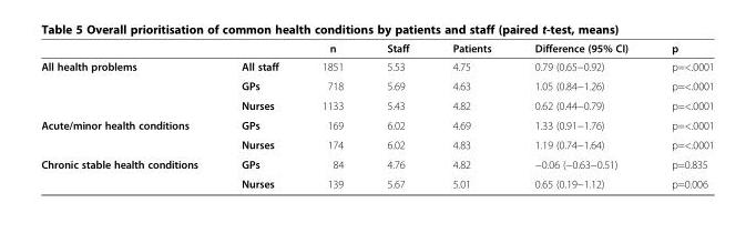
<table><thead><tr><td></td><td></td><td>n</td><td>Staff</td><td>Patients</td><td>Difference (95% CI)</td><td>p</td></tr></thead><tbody><tr><td rowspan="3">All health problems</td><td>All staff</td><td>1851</td><td>5.53</td><td>4.75</td><td>0.79 (0.65−0.92)</td><td>p=&lt;.0001</td></tr><tr><td>GPs</td><td>718</td><td>5.69</td><td>4.63</td><td>1.05 (0.84−1.26)</td><td>p=&lt;.0001</td></tr><tr><td>Nurses</td><td>1133</td><td>5.43</td><td>4.82</td><td>0.62 (0.44−0.79)</td><td>p=&lt;.0001</td></tr><tr><td rowspan="2">Acute/minor health conditions</td><td>GPs</td><td>169</td><td>6.02</td><td>4.69</td><td>1.33 (0.91−1.76)</td><td>p=&lt;.0001</td></tr><tr><td>Nurses</td><td>174</td><td>6.02</td><td>4.83</td><td>1.19 (0.74−1.64)</td><td>p=&lt;.0001</td></tr><tr><td rowspan="2">Chronic stable health conditions</td><td>GPs</td><td>84</td><td>4.76</td><td>4.82</td><td>−0.06 (−0.63−0.51)</td><td>p=0.835</td></tr><tr><td>Nurses</td><td>139</td><td>5.67</td><td>5.01</td><td>0.65 (0.19−1.12)</td><td>p=0.006</td></tr></tbody></table>